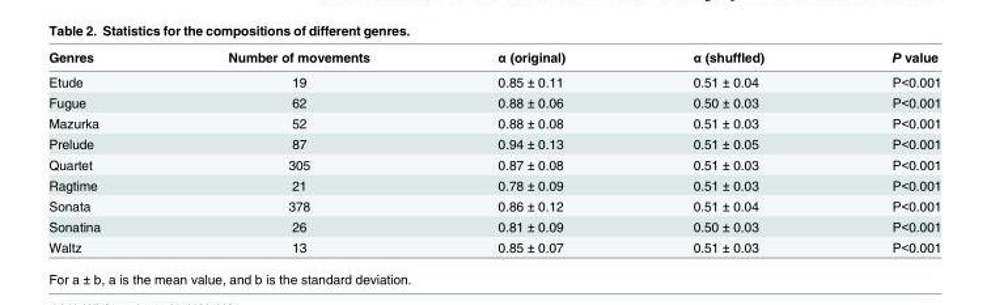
<table><thead><tr><td>Genres</td><td>Number of movements</td><td>α (original)</td><td>α (shuffled)</td><td>P value</td></tr></thead><tbody><tr><td>Etude</td><td>19</td><td>0.85 ± 0.11</td><td>0.51 ± 0.04</td><td>P&lt;0.001</td></tr><tr><td>Fugue</td><td>62</td><td>0.88 ± 0.06</td><td>0.50 ± 0.03</td><td>P&lt;0.001</td></tr><tr><td>Mazurka</td><td>52</td><td>0.88 ± 0.08</td><td>0.51 ± 0.03</td><td>P&lt;0.001</td></tr><tr><td>Prelude</td><td>87</td><td>0.94 ± 0.13</td><td>0.51 ± 0.05</td><td>P&lt;0.001</td></tr><tr><td>Quartet</td><td>305</td><td>0.87 ± 0.08</td><td>0.51 ± 0.03</td><td>P&lt;0.001</td></tr><tr><td>Ragtime</td><td>21</td><td>0.78 ± 0.09</td><td>0.51 ± 0.03</td><td>P&lt;0.001</td></tr><tr><td>Sonata</td><td>378</td><td>0.86 ± 0.12</td><td>0.51 ± 0.04</td><td>P&lt;0.001</td></tr><tr><td>Sonatina</td><td>26</td><td>0.81 ± 0.09</td><td>0.50 ± 0.03</td><td>P&lt;0.001</td></tr><tr><td>Waltz</td><td>13</td><td>0.85 ± 0.07</td><td>0.51 ± 0.03</td><td>P&lt;0.001</td></tr></tbody></table>